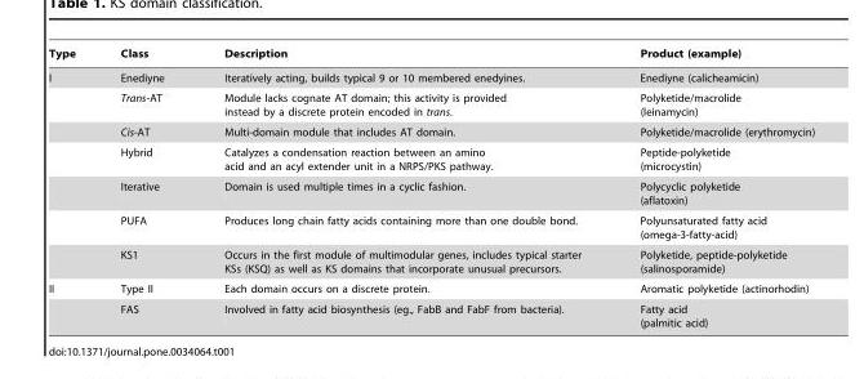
<table><thead><tr><td>Type</td><td>Class</td><td>Description</td><td>Product (example)</td></tr></thead><tbody><tr><td rowspan="7">I</td><td>Enediyne</td><td>Iteratively acting, builds typical 9 or 10 membered enedyines.</td><td>Enediyne (calicheamicin)</td></tr><tr><td>Trans-AT</td><td>Module lacks cognate AT domain; this activity is provided instead by a discrete protein encoded in trans.</td><td>Polyketide/macrolide (leinamycin)</td></tr><tr><td>Cis-AT</td><td>Multi-domain module that includes AT domain.</td><td>Polyketide/macrolide (erythromycin)</td></tr><tr><td>Hybrid</td><td>Catalyzes a condensation reaction between an amino acid and an acyl extender unit in a NRPS/PKS pathway.</td><td>Peptide-polyketide (microcystin)</td></tr><tr><td>Iterative</td><td>Domain is used multiple times in a cyclic fashion.</td><td>Polycyclic polyketide (aflatoxin)</td></tr><tr><td>PUFA</td><td>Produces long chain fatty acids containing more than one double bond.</td><td>Polyunsaturated fatty acid (omega-3-fatty-acid)</td></tr><tr><td>KS1</td><td>Occurs in the first module of multimodular genes, includes typical starter KSs (KSQ) as well as KS domains that incorporate unusual precursors.</td><td>Polyketide, peptide-polyketide (salinosporamide)</td></tr><tr><td rowspan="2">II</td><td>Type II</td><td>Each domain occurs on a discrete protein.</td><td>Aromatic polyketide (actinorhodin)</td></tr><tr><td>FAS</td><td>Involved in fatty acid biosynthesis (eg., FabB and FabF from bacteria).</td><td>Fatty acid (palmitic acid)</td></tr></tbody></table>